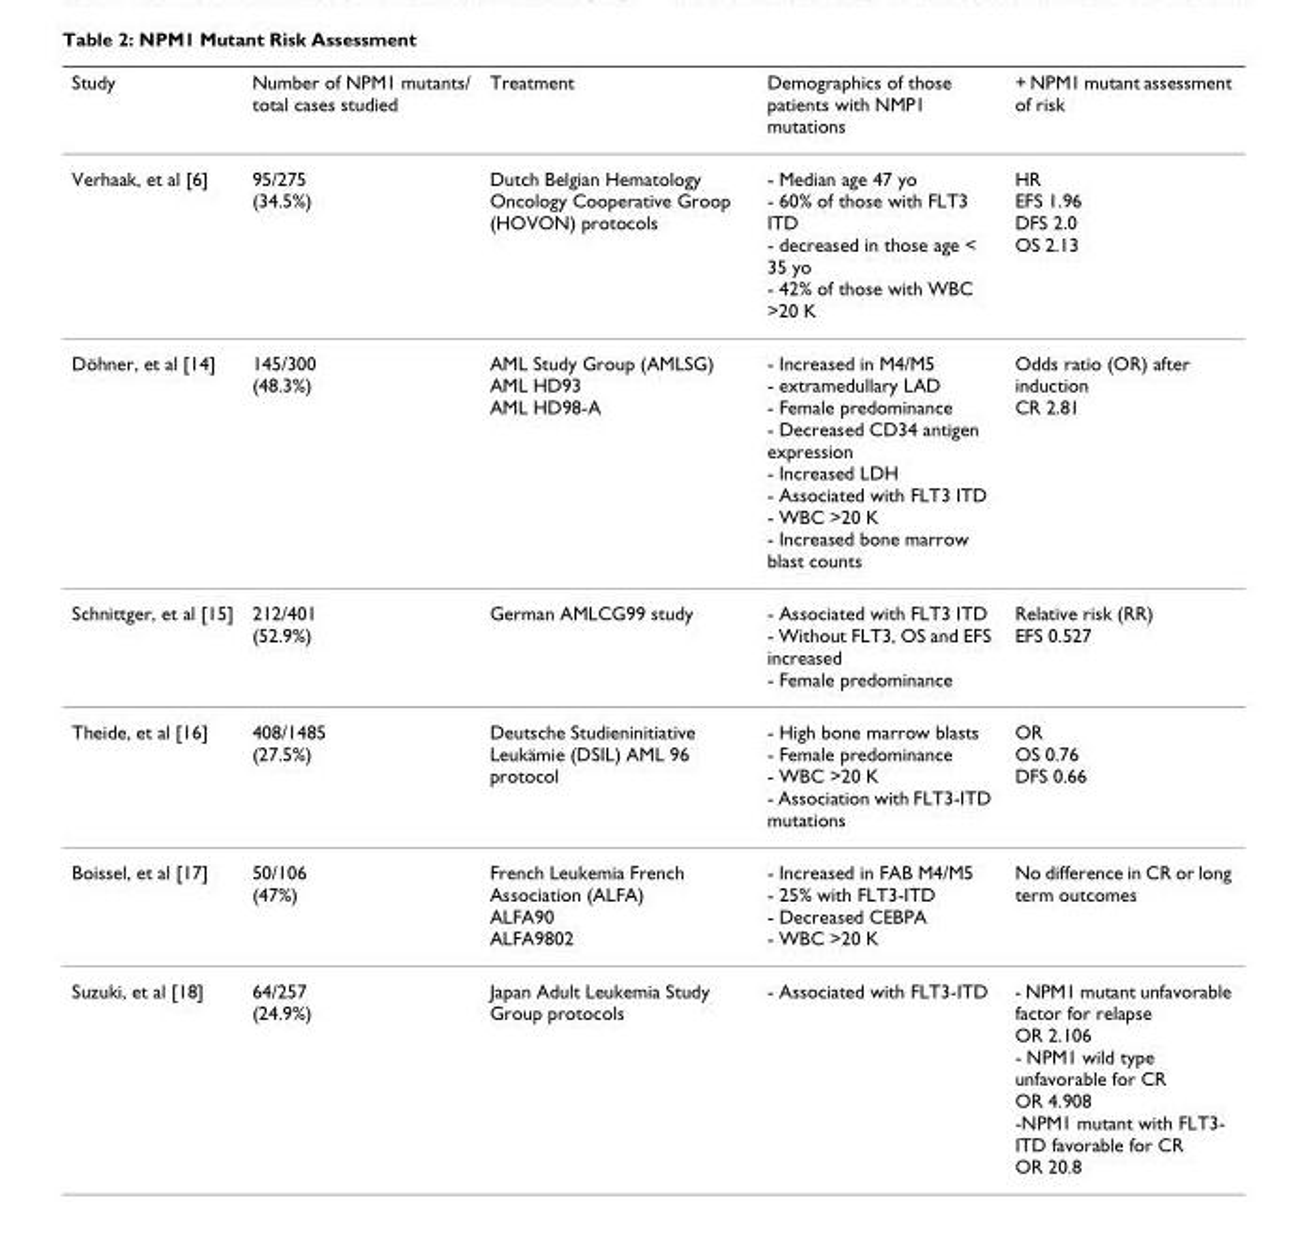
<table><thead><tr><td>Study</td><td>Number of NPM1 mutants/ total cases studied</td><td>Treatment</td><td>Demographics of those patients with NMP1 mutations</td><td>+ NPM1 mutant assessment of risk</td></tr></thead><tbody><tr><td>Verhaak, et al [6]</td><td>95/275 (34.5%)</td><td>Dutch Belgian Hematology Oncology Cooperative Groop (HOVON) protocols</td><td>- Median age 47 yo - 60% of those with FLT3 ITD - decreased in those age &lt; 35 yo - 42% of those with WBC &gt;20 K</td><td>HR EFS 1.96 DFS 2.0 OS 2.13</td></tr><tr><td>Döhner, et al [14]</td><td>145/300 (48.3%)</td><td>AML Study Group (AMLSG) AML HD93 AML HD98-A</td><td>- Increased in M4/M5 - extramedullary LAD - Female predominance - Decreased CD34 antigen expression - Increased LDH - Associated with FLT3 ITD - WBC &gt;20 K - Increased bone marrow blast counts</td><td>Odds ratio (OR) after induction CR 2.81</td></tr><tr><td>Schnittger, et al [15]</td><td>212/401 (52.9%)</td><td>German AMLCG99 study</td><td>- Associated with FLT3 ITD - Without FLT3, OS and EFS increased - Female predominance</td><td>Relative risk (RR) EFS 0.527</td></tr><tr><td>Theide, et al [16]</td><td>408/1485 (27.5%)</td><td>Deutsche Studieninitiative Leukämie (DSIL) AML 96 protocol</td><td>- High bone marrow blasts - Female predominance - WBC &gt;20 K - Association with FLT3-ITD mutations</td><td>OR OS 0.76 DFS 0.66</td></tr><tr><td>Boissel, et al [17]</td><td>50/106 (47%)</td><td>French Leukemia French Association (ALFA) ALFA90 ALFA9802</td><td>- Increased in FAB M4/M5 - 25% with FLT3-ITD - Decreased CEBPA - WBC &gt;20 K</td><td>No difference in CR or long term outcomes</td></tr><tr><td>Suzuki, et al [18]</td><td>64/257 (24.9%)</td><td>Japan Adult Leukemia Study Group protocols</td><td>- Associated with FLT3-ITD</td><td>- NPM1 mutant unfavorable factor for relapse OR 2.106 - NPM1 wild type unfavorable for CR OR 4.908 -NPM1 mutant with FLT3- ITD favorable for CR OR 20.8</td></tr></tbody></table>